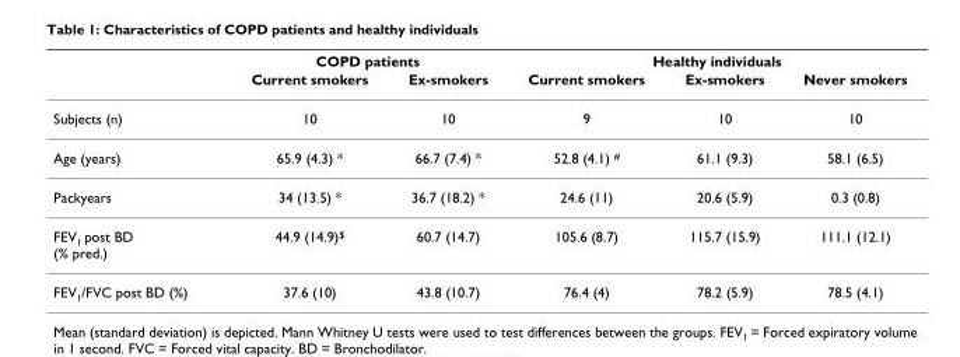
<table><thead><tr><td rowspan="2"></td><td colspan="2">COPD patients</td><td colspan="3">Healthy individuals</td></tr><tr><td>Current smokers</td><td>Ex-smokers</td><td>Current smokers</td><td>Ex-smokers</td><td>Never smokers</td></tr></thead><tbody><tr><td>Subjects (n)</td><td>10</td><td>10</td><td>9</td><td>10</td><td>10</td></tr><tr><td>Age (years)</td><td>65.9 (4.3) *</td><td>66.7 (7.4) *</td><td>52.8 (4.1) <sup>#</sup></td><td>61.1 (9.3)</td><td>58.1 (6.5)</td></tr><tr><td>Packyears</td><td>34 (13.5) *</td><td>36.7 (18.2) *</td><td>24.6 (11)</td><td>20.6 (5.9)</td><td>0.3 (0.8)</td></tr><tr><td>FEV<sub>1</sub> post BD (% pred.)</td><td>44.9 (14.9)<sup>$</sup></td><td>60.7 (14.7)</td><td>105.6 (8.7)</td><td>115.7 (15.9)</td><td>111.1 (12.1)</td></tr><tr><td>FEV<sub>1</sub>/FVC post BD (%)</td><td>37.6 (10)</td><td>43.8 (10.7)</td><td>76.4 (4)</td><td>78.2 (5.9)</td><td>78.5 (4.1)</td></tr></tbody></table>